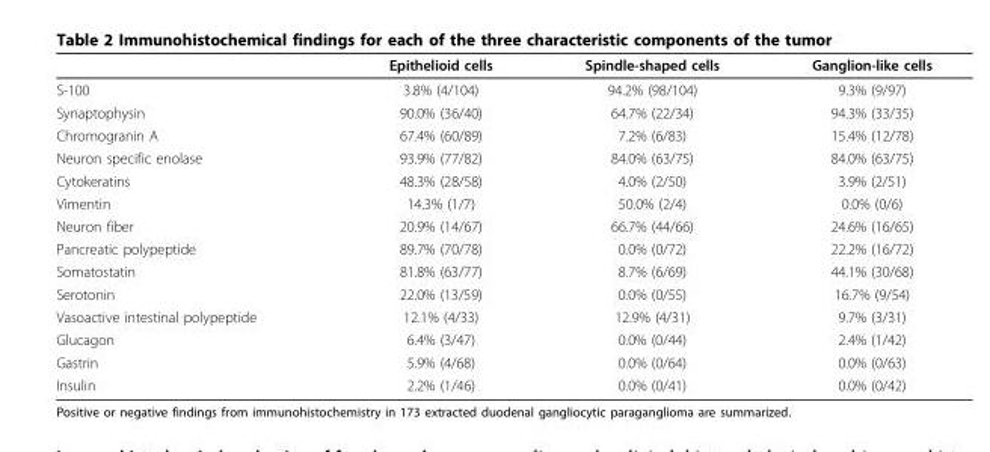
<table><thead><tr><td></td><td>Epithelioid cells</td><td>Spindle-shaped cells</td><td>Ganglion-like cells</td></tr></thead><tbody><tr><td>S-100</td><td>3.8% (4/104)</td><td>94.2% (98/104)</td><td>9.3% (9/97)</td></tr><tr><td>Synaptophysin</td><td>90.0% (36/40)</td><td>64.7% (22/34)</td><td>94.3% (33/35)</td></tr><tr><td>Chromogranin A</td><td>67.4% (60/89)</td><td>7.2% (6/83)</td><td>15.4% (12/78)</td></tr><tr><td>Neuron specific enolase</td><td>93.9% (77/82)</td><td>84.0% (63/75)</td><td>84.0% (63/75)</td></tr><tr><td>Cytokeratins</td><td>48.3% (28/58)</td><td>4.0% (2/50)</td><td>3.9% (2/51)</td></tr><tr><td>Vimentin</td><td>14.3% (1/7)</td><td>50.0% (2/4)</td><td>0.0% (0/6)</td></tr><tr><td>Neuron fiber</td><td>20.9% (14/67)</td><td>66.7% (44/66)</td><td>24.6% (16/65)</td></tr><tr><td>Pancreatic polypeptide</td><td>89.7% (70/78)</td><td>0.0% (0/72)</td><td>22.2% (16/72)</td></tr><tr><td>Somatostatin</td><td>81.8% (63/77)</td><td>8.7% (6/69)</td><td>44.1% (30/68)</td></tr><tr><td>Serotonin</td><td>22.0% (13/59)</td><td>0.0% (0/55)</td><td>16.7% (9/54)</td></tr><tr><td>Vasoactive intestinal polypeptide</td><td>12.1% (4/33)</td><td>12.9% (4/31)</td><td>9.7% (3/31)</td></tr><tr><td>Glucagon</td><td>6.4% (3/47)</td><td>0.0% (0/44)</td><td>2.4% (1/42)</td></tr><tr><td>Gastrin</td><td>5.9% (4/68)</td><td>0.0% (0/64)</td><td>0.0% (0/63)</td></tr><tr><td>Insulin</td><td>2.2% (1/46)</td><td>0.0% (0/41)</td><td>0.0% (0/42)</td></tr></tbody></table>